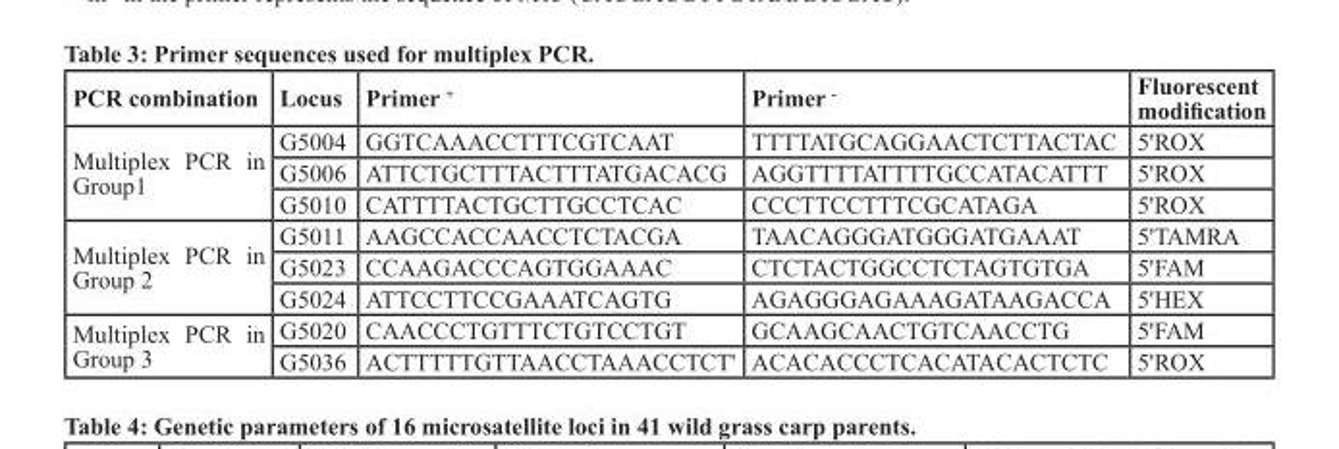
<table><thead><tr><td>PCR combination</td><td>Locus</td><td>Primer <sup>+</sup></td><td>Primer <sup>-</sup></td><td>Fluorescent modification</td></tr></thead><tbody><tr><td rowspan="3">Multiplex PCR in Group1</td><td>G5004</td><td>GGTCAAACCTTTCGTCAAT</td><td>TTTTATGCAGGAACTCTTACTAC</td><td>5&#x27;ROX</td></tr><tr><td>G5006</td><td>ATTCTGCTTTACTTTATGACACG</td><td>AGGTTTTATTTTGCCATACATTT</td><td>5&#x27;ROX</td></tr><tr><td>G5010</td><td>CATTTTACTGCTTGCCTCAC</td><td>CCCTTCCTTTCGCATAGA</td><td>5&#x27;ROX</td></tr><tr><td rowspan="3">Multiplex PCR in Group 2</td><td>G5011</td><td>AAGCCACCAACCTCTACGA</td><td>TAACAGGGATGGGATGAAAT</td><td>5&#x27;TAMRA</td></tr><tr><td>G5023</td><td>CCAAGACCCAGTGGAAAC</td><td>CTCTACTGGCCTCTAGTGTGA</td><td>5&#x27;FAM</td></tr><tr><td>G5024</td><td>ATTCCTTCCGAAATCAGTG</td><td>AGAGGGAGAAAGATAAGACCA</td><td>5&#x27;HEX</td></tr><tr><td rowspan="2">Multiplex PCR in Group 3</td><td>G5020</td><td>CAACCCTGTTTCTGTCCTGT</td><td>GCAAGCAACTGTCAACCTG</td><td>5&#x27;FAM</td></tr><tr><td>G5036</td><td>ACTTTTTGTTAACCTAAACCTCT&#x27;</td><td>ACACACCCTCACATACACTCTC</td><td>5&#x27;ROX</td></tr></tbody></table>